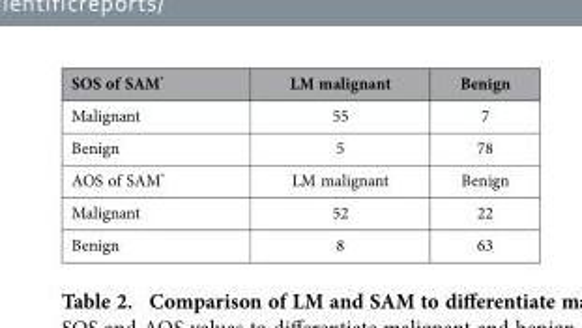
<table><thead><tr><td>SOS of SAM*</td><td>LM malignant</td><td>Benign</td></tr></thead><tbody><tr><td>Malignant</td><td>55</td><td>7</td></tr><tr><td>Benign</td><td>5</td><td>78</td></tr><tr><td>AOS of SAM*</td><td>LM malignant</td><td>Benign</td></tr><tr><td>Malignant</td><td>52</td><td>22</td></tr><tr><td>Benign</td><td>8</td><td>63</td></tr></tbody></table>